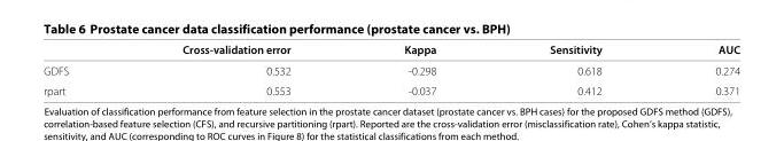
<table><thead><tr><td></td><td>Cross-validation error</td><td>Kappa</td><td>Sensitivity</td><td>AUC</td></tr></thead><tbody><tr><td>GDFS</td><td>0.532</td><td>-0.298</td><td>0.618</td><td>0.274</td></tr><tr><td>rpart</td><td>0.553</td><td>-0.037</td><td>0.412</td><td>0.371</td></tr></tbody></table>